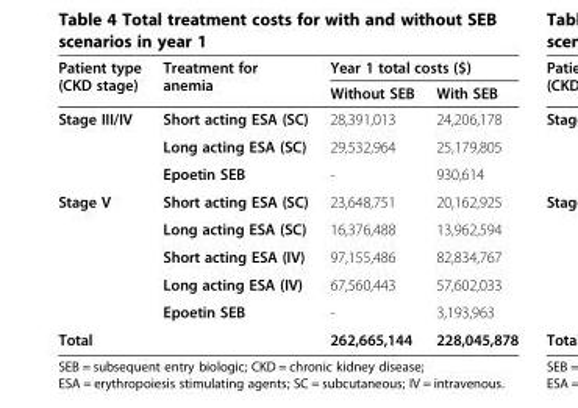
<table><thead><tr><td rowspan="2">Patient type (CKD stage)</td><td rowspan="2">Treatment for anemia</td><td colspan="2">Year 1 total costs ($)</td></tr><tr><td>Without SEB</td><td>With SEB</td></tr></thead><tbody><tr><td rowspan="3">Stage III/IV</td><td>Short acting ESA (SC)</td><td>28,391,013</td><td>24,206,178</td></tr><tr><td>Long acting ESA (SC)</td><td>29,532,964</td><td>25,179,805</td></tr><tr><td>Epoetin SEB</td><td>-</td><td>930,614</td></tr><tr><td rowspan="5">Stage V</td><td>Short acting ESA (SC)</td><td>23,648,751</td><td>20,162,925</td></tr><tr><td>Long acting ESA (SC)</td><td>16,376,488</td><td>13,962,594</td></tr><tr><td>Short acting ESA (IV)</td><td>97,155,486</td><td>82,834,767</td></tr><tr><td>Long acting ESA (IV)</td><td>67,560,443</td><td>57,602,033</td></tr><tr><td>Epoetin SEB</td><td>-</td><td>3,193,963</td></tr><tr><td colspan="2">Total</td><td>262,665,144</td><td>228,045,878</td></tr></tbody></table>